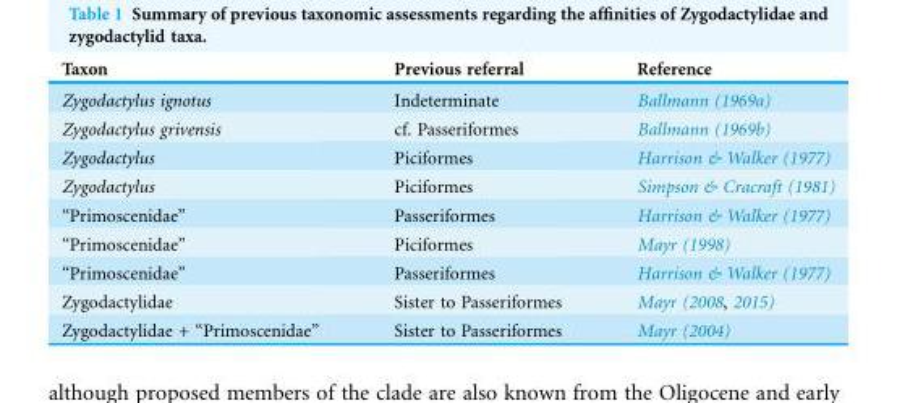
<table><thead><tr><td>Taxon</td><td>Previous referral</td><td>Reference</td></tr></thead><tbody><tr><td>Zygodactylus ignotus</td><td>Indeterminate</td><td>Ballmann (1969a)</td></tr><tr><td>Zygodactylus grivensis</td><td>cf. Passeriformes</td><td>Ballmann (1969b)</td></tr><tr><td>Zygodactylus</td><td>Piciformes</td><td>Harrison &amp; Walker (1977)</td></tr><tr><td>Zygodactylus</td><td>Piciformes</td><td>Simpson &amp; Cracraft (1981)</td></tr><tr><td>“Primoscenidae”</td><td>Passeriformes</td><td>Harrison &amp; Walker (1977)</td></tr><tr><td>“Primoscenidae”</td><td>Piciformes</td><td>Mayr (1998)</td></tr><tr><td>“Primoscenidae”</td><td>Passeriformes</td><td>Harrison &amp; Walker (1977)</td></tr><tr><td>Zygodactylidae</td><td>Sister to Passeriformes</td><td>Mayr (2008, 2015)</td></tr><tr><td>Zygodactylidae + “Primoscenidae”</td><td>Sister to Passeriformes</td><td>Mayr (2004)</td></tr></tbody></table>